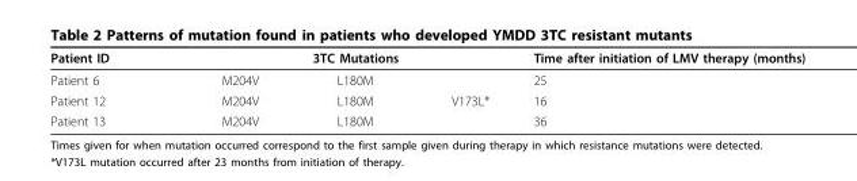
<table><thead><tr><td rowspan="2">Patient ID Patient 6</td><td colspan="3">3TC Mutations</td><td rowspan="2">Time after initiation of LMV therapy (months) 25</td></tr><tr><td>M204V</td><td>L180M</td><td></td></tr></thead><tbody><tr><td>Patient 12</td><td>M204V</td><td>L180M</td><td>V173L*</td><td>16</td></tr><tr><td>Patient 13</td><td>M204V</td><td>L180M</td><td></td><td>36</td></tr></tbody></table>